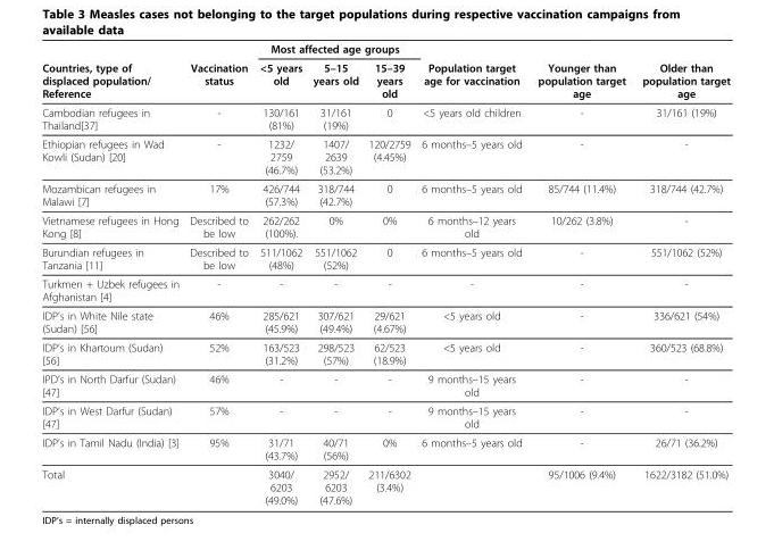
<table><thead><tr><td rowspan="2">Countries, type of displaced population/ Reference</td><td rowspan="2">Vaccination status</td><td colspan="3">Most affected age groups</td><td rowspan="2">Population target age for vaccination</td><td rowspan="2">Younger than population target age</td><td rowspan="2">Older than population target age</td></tr><tr><td>&lt;5 years old</td><td>5–15 years old</td><td>15–39 years old</td></tr></thead><tbody><tr><td>Cambodian refugees in Thailand[37]</td><td>-</td><td>130/161 (81%)</td><td>31/161 (19%)</td><td>0</td><td>&lt;5 years old children</td><td>-</td><td>31/161 (19%)</td></tr><tr><td>Ethiopian refugees in Wad Kowli (Sudan) [20]</td><td>-</td><td>1232/ 2759 (46.7%)</td><td>1407/ 2639 (53.2%)</td><td>120/2759 (4.45%)</td><td>6 months–5 years old</td><td>-</td><td>-</td></tr><tr><td>Mozambican refugees in Malawi [7]</td><td>17%</td><td>426/744 (57.3%)</td><td>318/744 (42.7%)</td><td>0</td><td>6 months–5 years old</td><td>85/744 (11.4%)</td><td>318/744 (42.7%)</td></tr><tr><td>Vietnamese refugees in Hong Kong [8]</td><td>Described to be low</td><td>262/262 (100%).</td><td>0%</td><td>0%</td><td>6 months–12 years old</td><td>10/262 (3.8%)</td><td>-</td></tr><tr><td>Burundian refugees in Tanzania [11]</td><td>Described to be low</td><td>511/1062 (48%)</td><td>551/1062 (52%)</td><td>0</td><td>6 months–5 years old</td><td>-</td><td>551/1062 (52%)</td></tr><tr><td>Turkmen + Uzbek refugees in Afghanistan [4]</td><td>-</td><td>-</td><td>-</td><td>-</td><td>-</td><td>-</td><td>-</td></tr><tr><td>IDP’s in White Nile state (Sudan) [56]</td><td>46%</td><td>285/621 (45.9%)</td><td>307/621 (49.4%)</td><td>29/621 (4.67%)</td><td>&lt;5 years old</td><td>-</td><td>336/621 (54%)</td></tr><tr><td>IDP’s in Khartoum (Sudan) [56]</td><td>52%</td><td>163/523 (31.2%)</td><td>298/523 (57%)</td><td>62/523 (18.9%)</td><td>&lt;5 years old</td><td>-</td><td>360/523 (68.8%)</td></tr><tr><td>IPD’s in North Darfur (Sudan) [47]</td><td>46%</td><td>-</td><td>-</td><td>-</td><td>9 months–15 years old</td><td>-</td><td>-</td></tr><tr><td>IDP’s in West Darfur (Sudan) [47]</td><td>57%</td><td>-</td><td>-</td><td>-</td><td>9 months–15 years old</td><td>-</td><td>-</td></tr><tr><td>IDP’s in Tamil Nadu (India) [3]</td><td>95%</td><td>31/71 (43.7%)</td><td>40/71 (56%)</td><td>0%</td><td>6 months–5 years old</td><td>-</td><td>26/71 (36.2%)</td></tr><tr><td>Total</td><td></td><td>3040/ 6203 (49.0%)</td><td>2952/ 6203 (47.6%)</td><td>211/6302 (3.4%)</td><td></td><td>95/1006 (9.4%)</td><td>1622/3182 (51.0%)</td></tr></tbody></table>